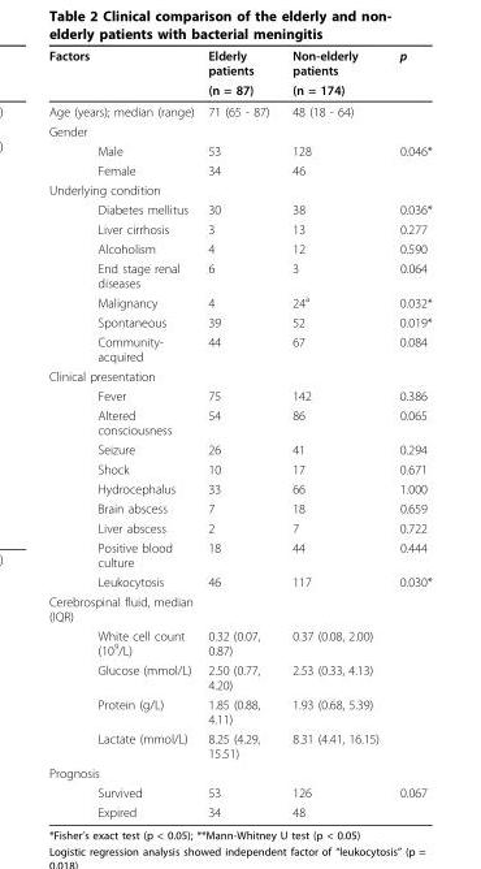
<table><tbody><tr><td rowspan="2">Factors</td><td>Elderly patients</td><td>Non-elderly patients</td><td>p</td></tr><tr><td>(n = 87)</td><td>(n = 174)</td><td></td></tr><tr><td>Age (years); median (range)</td><td>71 (65 - 87)</td><td>48 (18 - 64)</td><td></td></tr><tr><td colspan="4">Gender</td></tr><tr><td>Male</td><td>53</td><td>128</td><td>0.046*</td></tr><tr><td>Female</td><td>34</td><td>46</td><td></td></tr><tr><td colspan="4">Underlying condition</td></tr><tr><td>Diabetes mellitus</td><td>30</td><td>38</td><td>0.036*</td></tr><tr><td>Liver cirrhosis</td><td>3</td><td>13</td><td>0.277</td></tr><tr><td>Alcoholism</td><td>4</td><td>12</td><td>0.590</td></tr><tr><td>End stage renal diseases</td><td>6</td><td>3</td><td>0.064</td></tr><tr><td>Malignancy</td><td>4</td><td>24<sup>a</sup></td><td>0.032*</td></tr><tr><td>Spontaneous</td><td>39</td><td>52</td><td>0.019*</td></tr><tr><td>Community- acquired</td><td>44</td><td>67</td><td>0.084</td></tr><tr><td colspan="4">Clinical presentation</td></tr><tr><td>Fever</td><td>75</td><td>142</td><td>0.386</td></tr><tr><td>Altered consciousness</td><td>54</td><td>86</td><td>0.065</td></tr><tr><td>Seizure</td><td>26</td><td>41</td><td>0.294</td></tr><tr><td>Shock</td><td>10</td><td>17</td><td>0.671</td></tr><tr><td>Hydrocephalus</td><td>33</td><td>66</td><td>1.000</td></tr><tr><td>Brain abscess</td><td>7</td><td>18</td><td>0.659</td></tr><tr><td>Liver abscess</td><td>2</td><td>7</td><td>0.722</td></tr><tr><td>Positive blood culture</td><td>18</td><td>44</td><td>0.444</td></tr><tr><td>Leukocytosis</td><td>46</td><td>117</td><td>0.030*</td></tr><tr><td colspan="4">Cerebrospinal fluid, median (IQR)</td></tr><tr><td>White cell count (10<sup>9</sup>/L)</td><td>0.32 (0.07, 0.87)</td><td>0.37 (0.08, 2.00)</td><td></td></tr><tr><td>Glucose (mmol/L)</td><td>2.50 (0.77, 4.20)</td><td>2.53 (0.33, 4.13)</td><td></td></tr><tr><td>Protein (g/L)</td><td>1.85 (0.88, 4.11)</td><td>1.93 (0.68, 5.39)</td><td></td></tr><tr><td>Lactate (mmol/L)</td><td>8.25 (4.29, 15.51)</td><td>8.31 (4.41, 16.15)</td><td></td></tr><tr><td colspan="4">Prognosis</td></tr><tr><td>Survived</td><td>53</td><td>126</td><td>0.067</td></tr><tr><td>Expired</td><td>34</td><td>48</td><td></td></tr></tbody></table>